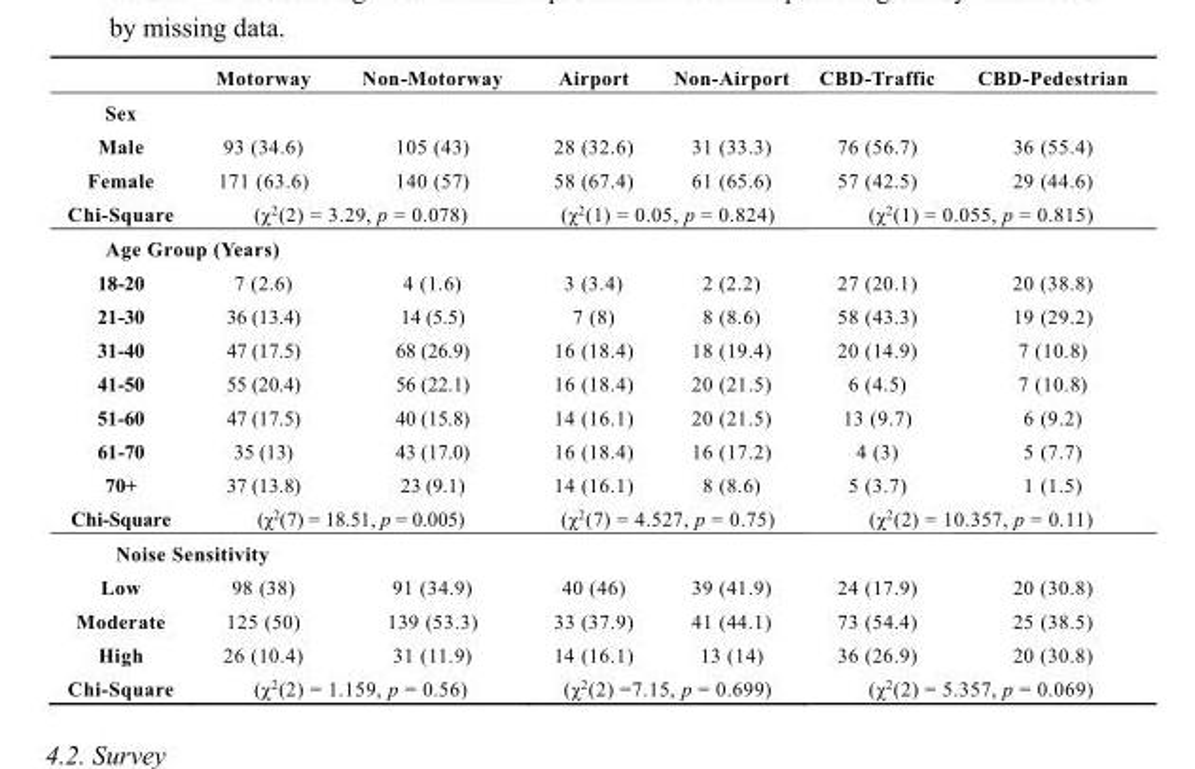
<table><thead><tr><td></td><td>Motorway</td><td>Non-Motorway</td><td>Airport</td><td>Non-Airport</td><td>CBD-Traffic</td><td>CBD-Pedestrian</td></tr></thead><tbody><tr><td colspan="7">Sex</td></tr><tr><td>Male</td><td>93 (34.6)</td><td>105 (43)</td><td>28 (32.6)</td><td>31 (33.3)</td><td>76 (56.7)</td><td>36 (55.4)</td></tr><tr><td>Female</td><td>171 (63.6)</td><td>140 (57)</td><td>58 (67.4)</td><td>61 (65.6)</td><td>57 (42.5)</td><td>29 (44.6)</td></tr><tr><td>Chi-Square</td><td colspan="2">(χ<sup>2</sup>(2) = 3.29, p = 0.078)</td><td colspan="2">(χ<sup>2</sup>(1) = 0.05, p = 0.824)</td><td colspan="2">(χ<sup>2</sup>(1) = 0.055, p = 0.815)</td></tr><tr><td colspan="7">Age Group (Years)</td></tr><tr><td>18-20</td><td>7 (2.6)</td><td>4 (1.6)</td><td>3 (3.4)</td><td>2 (2.2)</td><td>27 (20.1)</td><td>20 (38.8)</td></tr><tr><td>21-30</td><td>36 (13.4)</td><td>14 (5.5)</td><td>7 (8)</td><td>8 (8.6)</td><td>58 (43.3)</td><td>19 (29.2)</td></tr><tr><td>31-40</td><td>47 (17.5)</td><td>68 (26.9)</td><td>16 (18.4)</td><td>18 (19.4)</td><td>20 (14.9)</td><td>7 (10.8)</td></tr><tr><td>41-50</td><td>55 (20.4)</td><td>56 (22.1)</td><td>16 (18.4)</td><td>20 (21.5)</td><td>6 (4.5)</td><td>7 (10.8)</td></tr><tr><td>51-60</td><td>47 (17.5)</td><td>40 (15.8)</td><td>14 (16.1)</td><td>20 (21.5)</td><td>13 (9.7)</td><td>6 (9.2)</td></tr><tr><td>61-70</td><td>35 (13)</td><td>43 (17.0)</td><td>16 (18.4)</td><td>16 (17.2)</td><td>4 (3)</td><td>5 (7.7)</td></tr><tr><td>70+</td><td>37 (13.8)</td><td>23 (9.1)</td><td>14 (16.1)</td><td>8 (8.6)</td><td>5 (3.7)</td><td>1 (1.5)</td></tr><tr><td>Chi-Square</td><td colspan="2">(χ<sup>2</sup>(7) = 18.51, p = 0.005)</td><td colspan="2">(χ<sup>2</sup>(7) = 4.527, p = 0.75)</td><td colspan="2">(χ<sup>2</sup>(2) = 10.357, p = 0.11)</td></tr><tr><td colspan="7">Noise Sensitivity</td></tr><tr><td>Low</td><td>98 (38)</td><td>91 (34.9)</td><td>40 (46)</td><td>39 (41.9)</td><td>24 (17.9)</td><td>20 (30.8)</td></tr><tr><td>Moderate</td><td>125 (50)</td><td>139 (53.3)</td><td>33 (37.9)</td><td>41 (44.1)</td><td>73 (54.4)</td><td>25 (38.5)</td></tr><tr><td>High</td><td>26 (10.4)</td><td>31 (11.9)</td><td>14 (16.1)</td><td>13 (14)</td><td>36 (26.9)</td><td>20 (30.8)</td></tr><tr><td>Chi-Square</td><td colspan="2">(χ<sup>2</sup>(2) = 1.159, p = 0.56)</td><td colspan="2">(χ<sup>2</sup>(2) =7.15, p = 0.699)</td><td colspan="2">(χ<sup>2</sup>(2) = 5.357, p = 0.069)</td></tr></tbody></table>